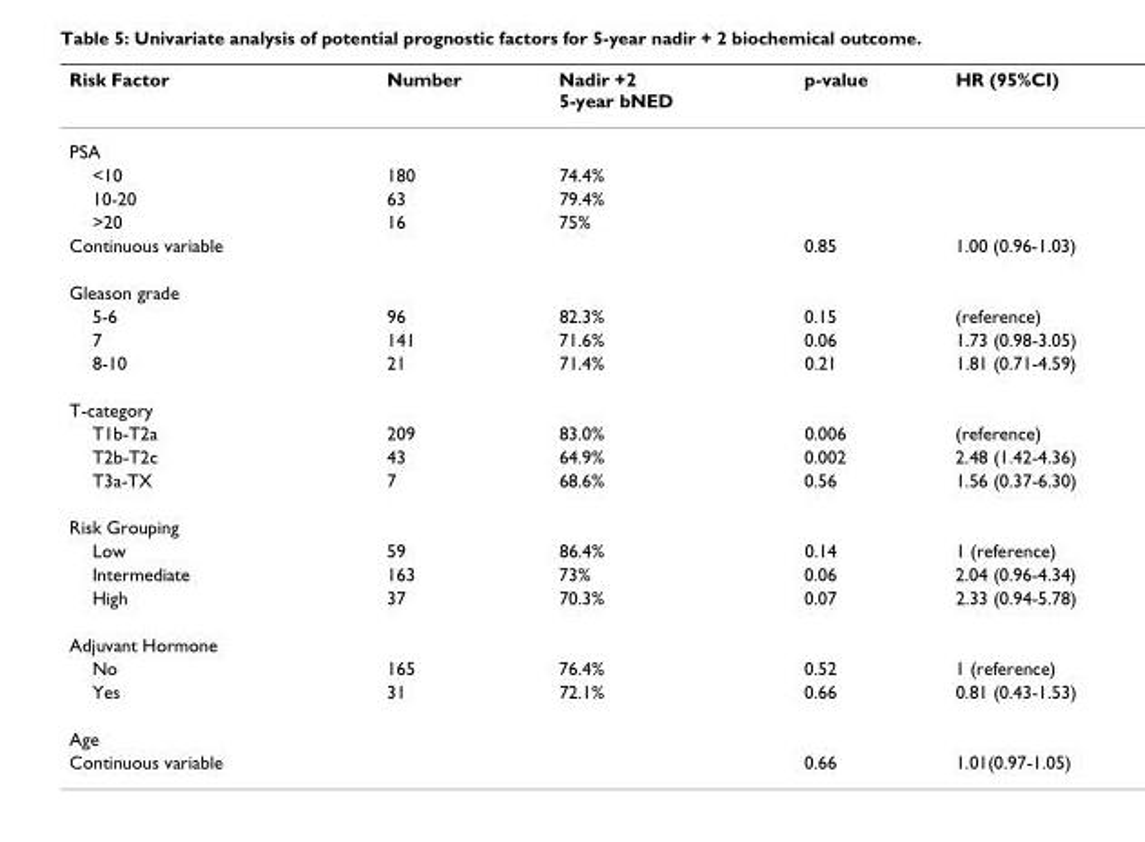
<table><thead><tr><td>Risk Factor</td><td>Number</td><td>Nadir +2 5-year bNED</td><td>p-value</td><td>HR (95%CI)</td></tr></thead><tbody><tr><td colspan="5">PSA</td></tr><tr><td>&lt;10</td><td>180</td><td>74.4%</td><td></td><td></td></tr><tr><td>10-20</td><td>63</td><td>79.4%</td><td></td><td></td></tr><tr><td>&gt;20</td><td>16</td><td>75%</td><td></td><td></td></tr><tr><td>Continuous variable</td><td></td><td></td><td>0.85</td><td>1.00 (0.96-1.03)</td></tr><tr><td colspan="5">Gleason grade</td></tr><tr><td>5-6</td><td>96</td><td>82.3%</td><td>0.15</td><td>(reference)</td></tr><tr><td>7</td><td>141</td><td>71.6%</td><td>0.06</td><td>1.73 (0.98-3.05)</td></tr><tr><td>8-10</td><td>21</td><td>71.4%</td><td>0.21</td><td>1.81 (0.71-4.59)</td></tr><tr><td colspan="5">T-category</td></tr><tr><td>T1b-T2a</td><td>209</td><td>83.0%</td><td>0.006</td><td>(reference)</td></tr><tr><td>T2b-T2c</td><td>43</td><td>64.9%</td><td>0.002</td><td>2.48 (1.42-4.36)</td></tr><tr><td>T3a-TX</td><td>7</td><td>68.6%</td><td>0.56</td><td>1.56 (0.37-6.30)</td></tr><tr><td colspan="5">Risk Grouping</td></tr><tr><td>Low</td><td>59</td><td>86.4%</td><td>0.14</td><td>1 (reference)</td></tr><tr><td>Intermediate</td><td>163</td><td>73%</td><td>0.06</td><td>2.04 (0.96-4.34)</td></tr><tr><td>High</td><td>37</td><td>70.3%</td><td>0.07</td><td>2.33 (0.94-5.78)</td></tr><tr><td colspan="5">Adjuvant Hormone</td></tr><tr><td>No</td><td>165</td><td>76.4%</td><td>0.52</td><td>1 (reference)</td></tr><tr><td>Yes</td><td>31</td><td>72.1%</td><td>0.66</td><td>0.81 (0.43-1.53)</td></tr><tr><td colspan="5">Age</td></tr><tr><td>Continuous variable</td><td></td><td></td><td>0.66</td><td>1.01(0.97-1.05)</td></tr></tbody></table>